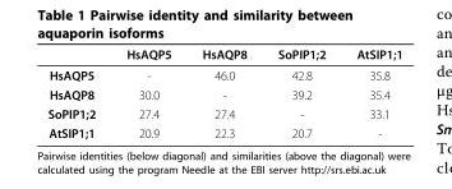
<table><thead><tr><td></td><td>HsAQP5</td><td>HsAQP8</td><td>SoPIP1;2</td><td>AtSIP1;1</td></tr></thead><tbody><tr><td>HsAQP5</td><td>-</td><td>46.0</td><td>42.8</td><td>35.8</td></tr><tr><td>HsAQP8</td><td>30.0</td><td>-</td><td>39.2</td><td>35.4</td></tr><tr><td>SoPIP1;2</td><td>27.4</td><td>27.4</td><td>-</td><td>33.1</td></tr><tr><td>AtSIP1;1</td><td>20.9</td><td>22.3</td><td>20.7</td><td>-</td></tr></tbody></table>